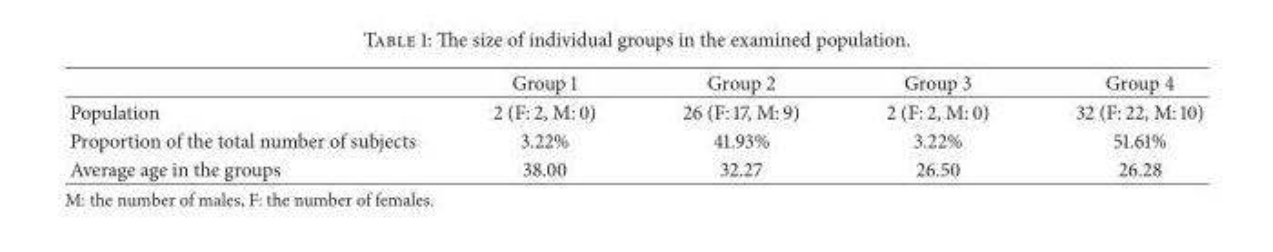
<table><thead><tr><td></td><td>Group 1</td><td>Group 2</td><td>Group 3</td><td>Group 4</td></tr></thead><tbody><tr><td>Population</td><td>2 (F: 2, M: 0)</td><td>26 (F: 17, M: 9)</td><td>2 (F: 2, M: 0)</td><td>32 (F: 22, M: 10)</td></tr><tr><td>Proportion of the total number of subjects</td><td>3.22%</td><td>41.93%</td><td>3.22%</td><td>51.61%</td></tr><tr><td>Average age in the groups</td><td>38.00</td><td>32.27</td><td>26.50</td><td>26.28</td></tr></tbody></table>